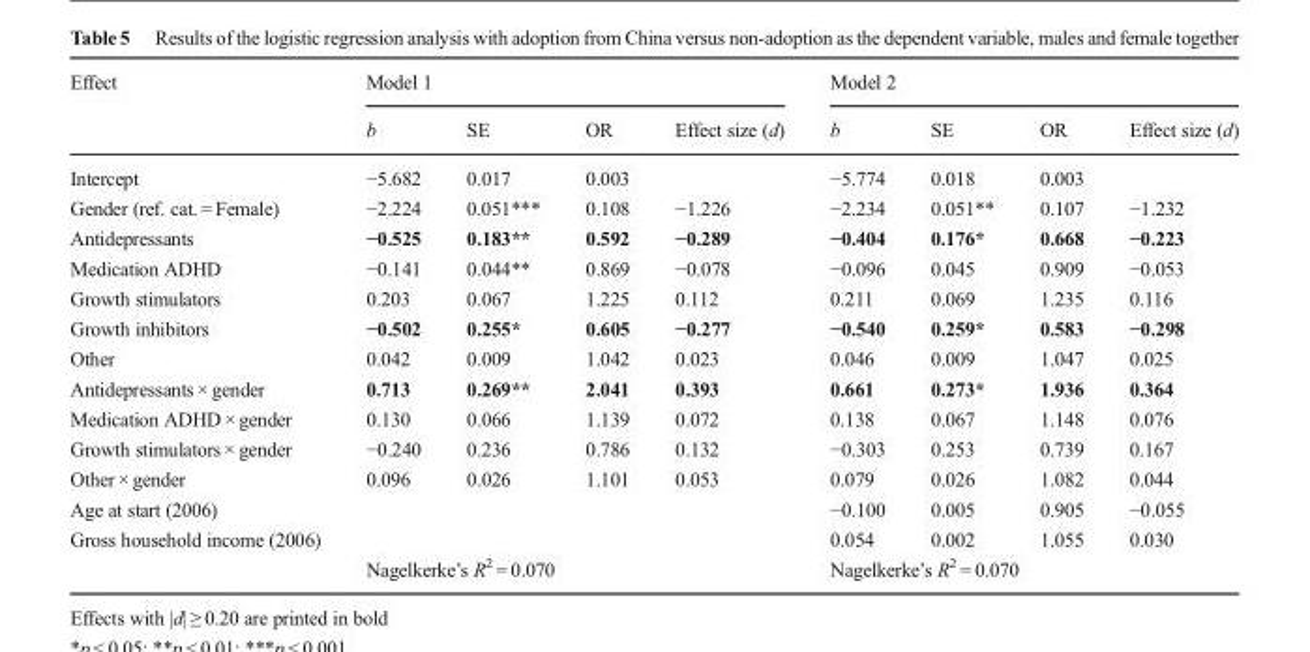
<table><thead><tr><td rowspan="2">Effect</td><td colspan="4">Model 1</td><td colspan="4">Model 2</td></tr><tr><td>b</td><td>SE</td><td>OR</td><td>Effect size (d)</td><td>b</td><td>SE</td><td>OR</td><td>Effect size (d)</td></tr></thead><tbody><tr><td>Intercept</td><td>−5.682</td><td>0.017</td><td>0.003</td><td></td><td>−5.774</td><td>0.018</td><td>0.003</td><td></td></tr><tr><td>Gender (ref. cat. = Female)</td><td>−2.224</td><td>0.051***</td><td>0.108</td><td>−1.226</td><td>−2.234</td><td>0.051**</td><td>0.107</td><td>−1.232</td></tr><tr><td>Antidepressants</td><td>−0.525</td><td>0.183**</td><td>0.592</td><td>−0.289</td><td>−0.404</td><td>0.176*</td><td>0.668</td><td>−0.223</td></tr><tr><td>Medication ADHD</td><td>−0.141</td><td>0.044**</td><td>0.869</td><td>−0.078</td><td>−0.096</td><td>0.045</td><td>0.909</td><td>−0.053</td></tr><tr><td>Growth stimulators</td><td>0.203</td><td>0.067</td><td>1.225</td><td>0.112</td><td>0.211</td><td>0.069</td><td>1.235</td><td>0.116</td></tr><tr><td>Growth inhibitors</td><td>−0.502</td><td>0.255*</td><td>0.605</td><td>−0.277</td><td>−0.540</td><td>0.259*</td><td>0.583</td><td>−0.298</td></tr><tr><td>Other</td><td>0.042</td><td>0.009</td><td>1.042</td><td>0.023</td><td>0.046</td><td>0.009</td><td>1.047</td><td>0.025</td></tr><tr><td>Antidepressants × gender</td><td>0.713</td><td>0.269**</td><td>2.041</td><td>0.393</td><td>0.661</td><td>0.273*</td><td>1.936</td><td>0.364</td></tr><tr><td>Medication ADHD × gender</td><td>0.130</td><td>0.066</td><td>1.139</td><td>0.072</td><td>0.138</td><td>0.067</td><td>1.148</td><td>0.076</td></tr><tr><td>Growth stimulators × gender</td><td>−0.240</td><td>0.236</td><td>0.786</td><td>0.132</td><td>−0.303</td><td>0.253</td><td>0.739</td><td>0.167</td></tr><tr><td>Other × gender</td><td>0.096</td><td>0.026</td><td>1.101</td><td>0.053</td><td>0.079</td><td>0.026</td><td>1.082</td><td>0.044</td></tr><tr><td>Age at start (2006)</td><td></td><td></td><td></td><td></td><td>−0.100</td><td>0.005</td><td>0.905</td><td>−0.055</td></tr><tr><td rowspan="2">Gross household income (2006)</td><td></td><td></td><td></td><td></td><td>0.054</td><td>0.002</td><td>1.055</td><td>0.030</td></tr><tr><td colspan="4">Nagelkerke’s R<sup>2</sup> = 0.070</td><td colspan="4">Nagelkerke’s R<sup>2</sup> = 0.070</td></tr></tbody></table>